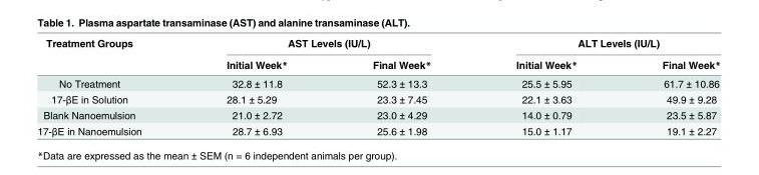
<table><thead><tr><td rowspan="2">Treatment Groups</td><td colspan="2">AST Levels (IU/L)</td><td colspan="2">ALT Levels (IU/L)</td></tr><tr><td>Initial Week*</td><td>Final Week*</td><td>Initial Week*</td><td>Final Week*</td></tr></thead><tbody><tr><td>No Treatment</td><td>32.8 ± 11.8</td><td>52.3 ± 13.3</td><td>25.5 ± 5.95</td><td>61.7 ± 10.86</td></tr><tr><td>17-βE in Solution</td><td>28.1 ± 5.29</td><td>23.3 ± 7.45</td><td>22.1 ± 3.63</td><td>49.9 ± 9.28</td></tr><tr><td>Blank Nanoemulsion</td><td>21.0 ± 2.72</td><td>23.0 ± 4.29</td><td>14.0 ± 0.79</td><td>23.5 ± 5.87</td></tr><tr><td>17-βE in Nanoemulsion</td><td>28.7 ± 6.93</td><td>25.6 ± 1.98</td><td>15.0 ± 1.17</td><td>19.1 ± 2.27</td></tr></tbody></table>